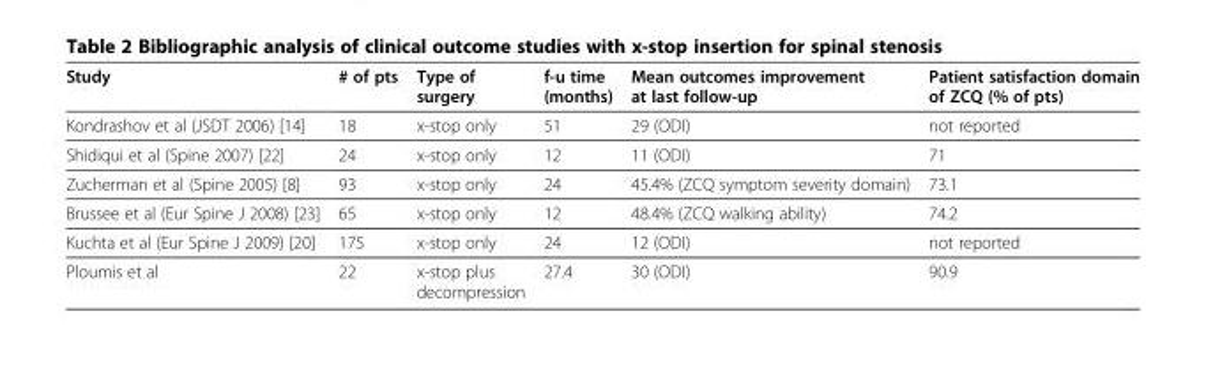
<table><thead><tr><td>Study</td><td># of pts</td><td>Type of surgery</td><td>f-u time (months)</td><td>Mean outcomes improvement at last follow-up</td><td>Patient satisfaction domain of ZCQ (% of pts)</td></tr></thead><tbody><tr><td>Kondrashov et al (JSDT 2006) [14]</td><td>18</td><td>x-stop only</td><td>51</td><td>29 (ODI)</td><td>not reported</td></tr><tr><td>Shidiqui et al (Spine 2007) [22]</td><td>24</td><td>x-stop only</td><td>12</td><td>11 (ODI)</td><td>71</td></tr><tr><td>Zucherman et al (Spine 2005) [8]</td><td>93</td><td>x-stop only</td><td>24</td><td>45.4% (ZCQ symptom severity domain)</td><td>73.1</td></tr><tr><td>Brussee et al (Eur Spine J 2008) [23]</td><td>65</td><td>x-stop only</td><td>12</td><td>48.4% (ZCQ walking ability)</td><td>74.2</td></tr><tr><td>Kuchta et al (Eur Spine J 2009) [20]</td><td>175</td><td>x-stop only</td><td>24</td><td>12 (ODI)</td><td>not reported</td></tr><tr><td>Ploumis et al</td><td>22</td><td>x-stop plus decompression</td><td>27.4</td><td>30 (ODI)</td><td>90.9</td></tr></tbody></table>